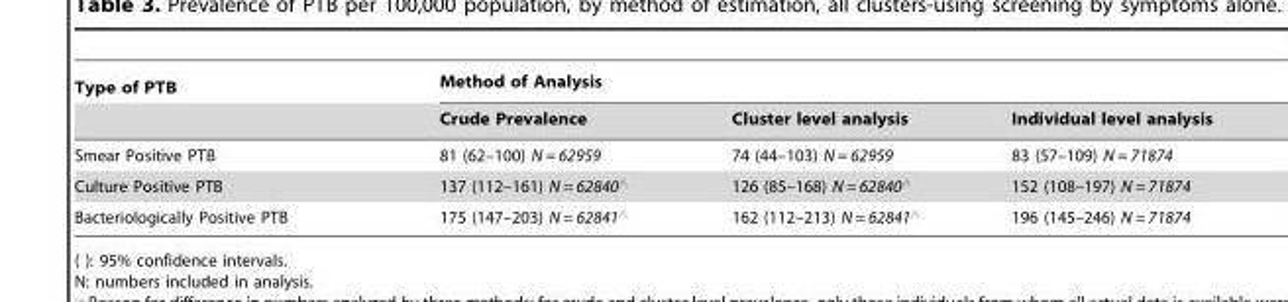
<table><thead><tr><td rowspan="2">Type of PTB</td><td colspan="3">Method of Analysis</td></tr><tr><td>Crude Prevalence</td><td>Cluster level analysis</td><td>Individual level analysis</td></tr></thead><tbody><tr><td>Smear Positive PTB</td><td>81 (62–100) N = 62959</td><td>74 (44–103) N = 62959</td><td>83 (57–109) N = 71874</td></tr><tr><td>Culture Positive PTB</td><td>137 (112–161) N = 62840‘</td><td>126 (85–168) N = 62840‘</td><td>152 (108–197) N = 71874</td></tr><tr><td>Bacteriologically Positive PTB</td><td>175 (147–203) N = 62841‘</td><td>162 (112–213) N = 62841‘</td><td>196 (145–246) N = 71874</td></tr></tbody></table>